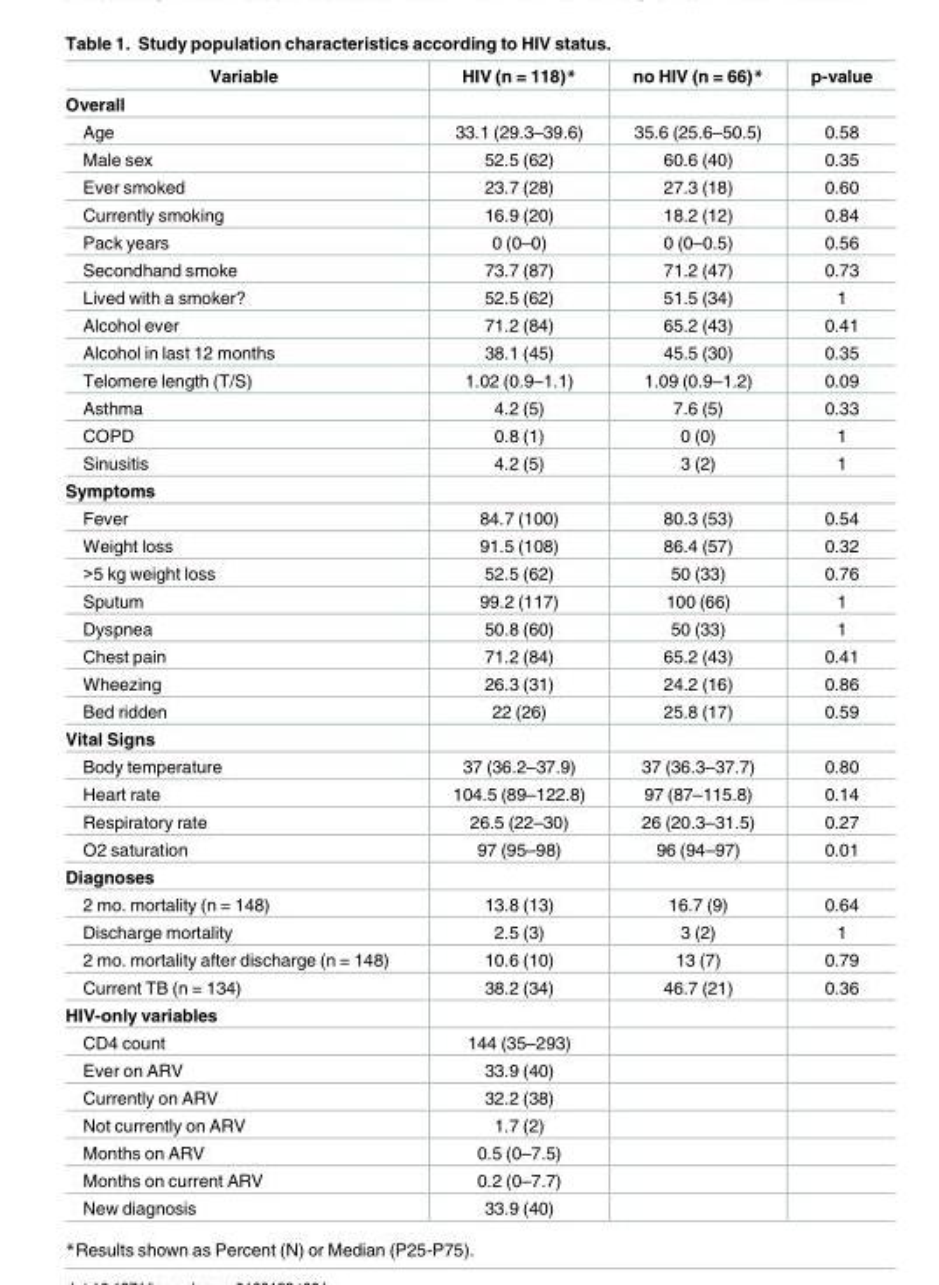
<table><thead><tr><td>Variable</td><td>HIV (n = 118)*</td><td>no HIV (n = 66)*</td><td>p-value</td></tr></thead><tbody><tr><td colspan="4">Overall</td></tr><tr><td>Age</td><td>33.1 (29.3–39.6)</td><td>35.6 (25.6–50.5)</td><td>0.58</td></tr><tr><td>Male sex</td><td>52.5 (62)</td><td>60.6 (40)</td><td>0.35</td></tr><tr><td>Ever smoked</td><td>23.7 (28)</td><td>27.3 (18)</td><td>0.60</td></tr><tr><td>Currently smoking</td><td>16.9 (20)</td><td>18.2 (12)</td><td>0.84</td></tr><tr><td>Pack years</td><td>0 (0–0)</td><td>0 (0–0.5)</td><td>0.56</td></tr><tr><td>Secondhand smoke</td><td>73.7 (87)</td><td>71.2 (47)</td><td>0.73</td></tr><tr><td>Lived with a smoker?</td><td>52.5 (62)</td><td>51.5 (34)</td><td>1</td></tr><tr><td>Alcohol ever</td><td>71.2 (84)</td><td>65.2 (43)</td><td>0.41</td></tr><tr><td>Alcohol in last 12 months</td><td>38.1 (45)</td><td>45.5 (30)</td><td>0.35</td></tr><tr><td>Telomere length (T/S)</td><td>1.02 (0.9–1.1)</td><td>1.09 (0.9–1.2)</td><td>0.09</td></tr><tr><td>Asthma</td><td>4.2 (5)</td><td>7.6 (5)</td><td>0.33</td></tr><tr><td>COPD</td><td>0.8 (1)</td><td>0 (0)</td><td>1</td></tr><tr><td>Sinusitis</td><td>4.2 (5)</td><td>3 (2)</td><td>1</td></tr><tr><td colspan="4">Symptoms</td></tr><tr><td>Fever</td><td>84.7 (100)</td><td>80.3 (53)</td><td>0.54</td></tr><tr><td>Weight loss</td><td>91.5 (108)</td><td>86.4 (57)</td><td>0.32</td></tr><tr><td>&gt;5 kg weight loss</td><td>52.5 (62)</td><td>50 (33)</td><td>0.76</td></tr><tr><td>Sputum</td><td>99.2 (117)</td><td>100 (66)</td><td>1</td></tr><tr><td>Dyspnea</td><td>50.8 (60)</td><td>50 (33)</td><td>1</td></tr><tr><td>Chest pain</td><td>71.2 (84)</td><td>65.2 (43)</td><td>0.41</td></tr><tr><td>Wheezing</td><td>26.3 (31)</td><td>24.2 (16)</td><td>0.86</td></tr><tr><td>Bed ridden</td><td>22 (26)</td><td>25.8 (17)</td><td>0.59</td></tr><tr><td colspan="4">Vital Signs</td></tr><tr><td>Body temperature</td><td>37 (36.2–37.9)</td><td>37 (36.3–37.7)</td><td>0.80</td></tr><tr><td>Heart rate</td><td>104.5 (89–122.8)</td><td>97 (87–115.8)</td><td>0.14</td></tr><tr><td>Respiratory rate</td><td>26.5 (22–30)</td><td>26 (20.3–31.5)</td><td>0.27</td></tr><tr><td>O2 saturation</td><td>97 (95–98)</td><td>96 (94–97)</td><td>0.01</td></tr><tr><td colspan="4">Diagnoses</td></tr><tr><td>2 mo. mortality (n = 148)</td><td>13.8 (13)</td><td>16.7 (9)</td><td>0.64</td></tr><tr><td>Discharge mortality</td><td>2.5 (3)</td><td>3 (2)</td><td>1</td></tr><tr><td>2 mo. mortality after discharge (n = 148)</td><td>10.6 (10)</td><td>13 (7)</td><td>0.79</td></tr><tr><td>Current TB (n = 134)</td><td>38.2 (34)</td><td>46.7 (21)</td><td>0.36</td></tr><tr><td colspan="4">HIV-only variables</td></tr><tr><td>CD4 count</td><td>144 (35–293)</td><td></td><td></td></tr><tr><td>Ever on ARV</td><td>33.9 (40)</td><td></td><td></td></tr><tr><td>Currently on ARV</td><td>32.2 (38)</td><td></td><td></td></tr><tr><td>Not currently on ARV</td><td>1.7 (2)</td><td></td><td></td></tr><tr><td>Months on ARV</td><td>0.5 (0–7.5)</td><td></td><td></td></tr><tr><td>Months on current ARV</td><td>0.2 (0–7.7)</td><td></td><td></td></tr><tr><td>New diagnosis</td><td>33.9 (40)</td><td></td><td></td></tr></tbody></table>